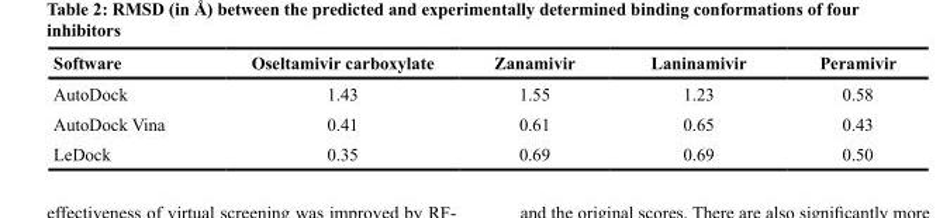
<table><thead><tr><td>Software</td><td>Oseltamivir carboxylate</td><td>Zanamivir</td><td>Laninamivir</td><td>Peramivir</td></tr></thead><tbody><tr><td>AutoDock</td><td>1.43</td><td>1.55</td><td>1.23</td><td>0.58</td></tr><tr><td>AutoDock Vina</td><td>0.41</td><td>0.61</td><td>0.65</td><td>0.43</td></tr><tr><td>LeDock</td><td>0.35</td><td>0.69</td><td>0.69</td><td>0.50</td></tr></tbody></table>